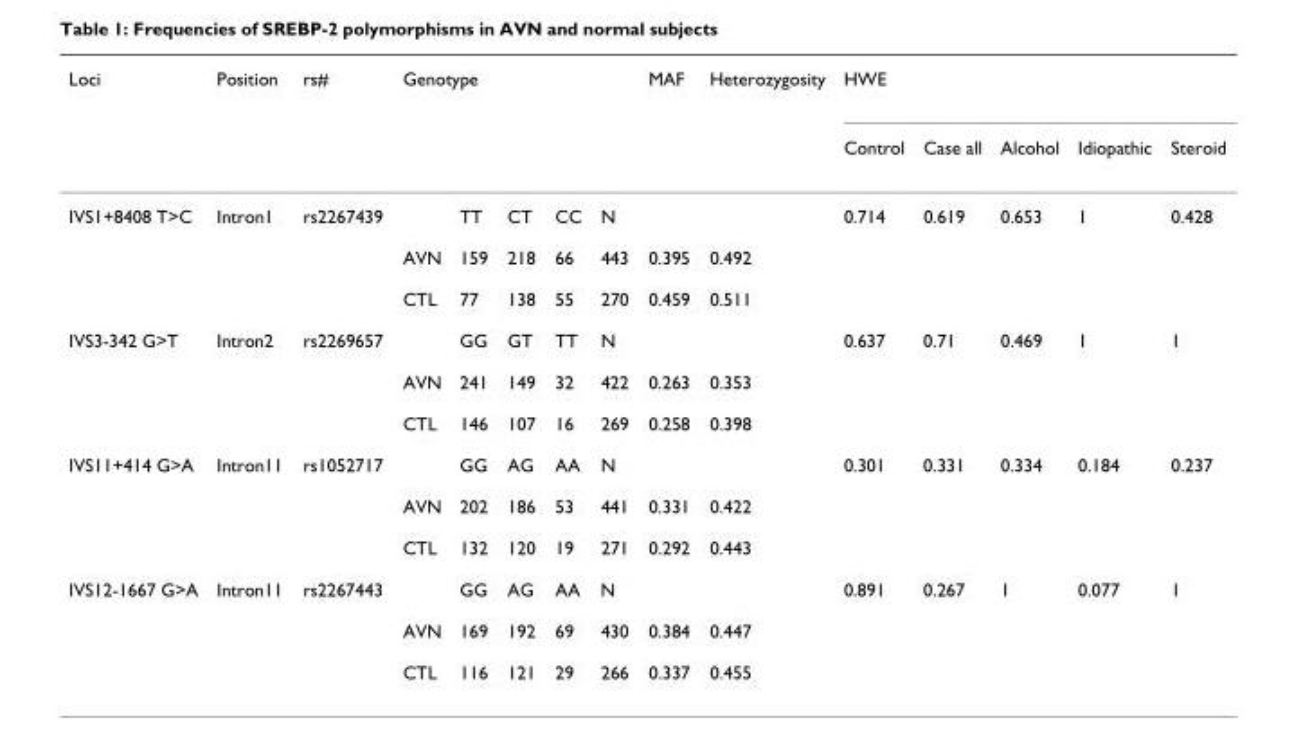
<table><thead><tr><td rowspan="2">Loci</td><td rowspan="2">Position</td><td rowspan="2">rs#</td><td colspan="5">Genotype</td><td rowspan="2">MAF</td><td rowspan="2">Heterozygosity</td><td colspan="5">HWE</td></tr><tr><td></td><td></td><td></td><td></td><td></td><td>Control</td><td>Case all</td><td>Alcohol</td><td>Idiopathic</td><td>Steroid</td></tr></thead><tbody><tr><td rowspan="3">IVS1+8408 T&gt;C</td><td>Intron1</td><td>rs2267439</td><td></td><td>TT</td><td>CT</td><td>CC</td><td>N</td><td></td><td></td><td>0.714</td><td>0.619</td><td>0.653</td><td>1</td><td>0.428</td></tr><tr><td></td><td></td><td>AVN</td><td>159</td><td>218</td><td>66</td><td>443</td><td>0.395</td><td>0.492</td><td></td><td></td><td></td><td></td><td></td></tr><tr><td></td><td></td><td>CTL</td><td>77</td><td>138</td><td>55</td><td>270</td><td>0.459</td><td>0.511</td><td></td><td></td><td></td><td></td><td></td></tr><tr><td rowspan="3">IVS3-342 G&gt;T</td><td>Intron2</td><td>rs2269657</td><td></td><td>GG</td><td>GT</td><td>TT</td><td>N</td><td></td><td></td><td>0.637</td><td>0.71</td><td>0.469</td><td>1</td><td>1</td></tr><tr><td></td><td></td><td>AVN</td><td>241</td><td>149</td><td>32</td><td>422</td><td>0.263</td><td>0.353</td><td></td><td></td><td></td><td></td><td></td></tr><tr><td></td><td></td><td>CTL</td><td>146</td><td>107</td><td>16</td><td>269</td><td>0.258</td><td>0.398</td><td></td><td></td><td></td><td></td><td></td></tr><tr><td rowspan="3">IVS11+414 G&gt;A</td><td>Intron11</td><td>rs1052717</td><td></td><td>GG</td><td>AG</td><td>AA</td><td>N</td><td></td><td></td><td>0.301</td><td>0.331</td><td>0.334</td><td>0.184</td><td>0.237</td></tr><tr><td></td><td></td><td>AVN</td><td>202</td><td>186</td><td>53</td><td>441</td><td>0.331</td><td>0.422</td><td></td><td></td><td></td><td></td><td></td></tr><tr><td></td><td></td><td>CTL</td><td>132</td><td>120</td><td>19</td><td>271</td><td>0.292</td><td>0.443</td><td></td><td></td><td></td><td></td><td></td></tr><tr><td rowspan="3">IVS12-1667 G&gt;A</td><td>Intron11</td><td>rs2267443</td><td></td><td>GG</td><td>AG</td><td>AA</td><td>N</td><td></td><td></td><td>0.891</td><td>0.267</td><td>1</td><td>0.077</td><td>1</td></tr><tr><td></td><td></td><td>AVN</td><td>169</td><td>192</td><td>69</td><td>430</td><td>0.384</td><td>0.447</td><td></td><td></td><td></td><td></td><td></td></tr><tr><td></td><td></td><td>CTL</td><td>116</td><td>121</td><td>29</td><td>266</td><td>0.337</td><td>0.455</td><td></td><td></td><td></td><td></td><td></td></tr></tbody></table>